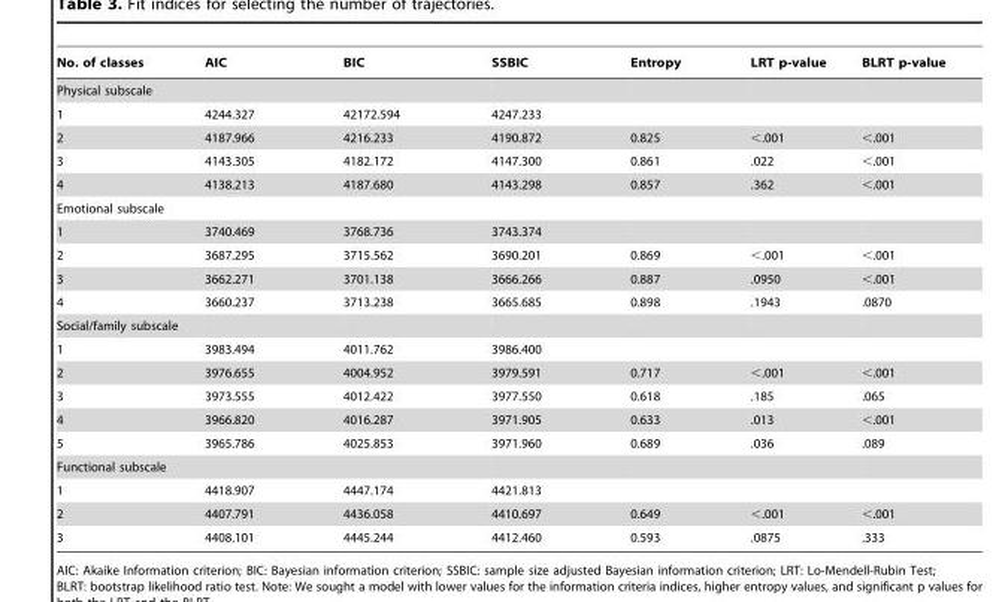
<table><thead><tr><td>No. of classes</td><td>AIC</td><td>BIC</td><td>SSBIC</td><td>Entropy</td><td>LRT p-value</td><td>BLRT p-value</td></tr></thead><tbody><tr><td colspan="7">Physical subscale</td></tr><tr><td>1</td><td>4244.327</td><td>42172.594</td><td>4247.233</td><td></td><td></td><td></td></tr><tr><td>2</td><td>4187.966</td><td>4216.233</td><td>4190.872</td><td>0.825</td><td>&lt;.001</td><td>&lt;.001</td></tr><tr><td>3</td><td>4143.305</td><td>4182.172</td><td>4147.300</td><td>0.861</td><td>.022</td><td>&lt;.001</td></tr><tr><td>4</td><td>4138.213</td><td>4187.680</td><td>4143.298</td><td>0.857</td><td>.362</td><td>&lt;.001</td></tr><tr><td colspan="7">Emotional subscale</td></tr><tr><td>1</td><td>3740.469</td><td>3768.736</td><td>3743.374</td><td></td><td></td><td></td></tr><tr><td>2</td><td>3687.295</td><td>3715.562</td><td>3690.201</td><td>0.869</td><td>&lt;.001</td><td>&lt;.001</td></tr><tr><td>3</td><td>3662.271</td><td>3701.138</td><td>3666.266</td><td>0.887</td><td>.0950</td><td>&lt;.001</td></tr><tr><td>4</td><td>3660.237</td><td>3713.238</td><td>3665.685</td><td>0.898</td><td>.1943</td><td>.0870</td></tr><tr><td colspan="7">Social/family subscale</td></tr><tr><td>1</td><td>3983.494</td><td>4011.762</td><td>3986.400</td><td></td><td></td><td></td></tr><tr><td>2</td><td>3976.655</td><td>4004.952</td><td>3979.591</td><td>0.717</td><td>&lt;.001</td><td>&lt;.001</td></tr><tr><td>3</td><td>3973.555</td><td>4012.422</td><td>3977.550</td><td>0.618</td><td>.185</td><td>.065</td></tr><tr><td>4</td><td>3966.820</td><td>4016.287</td><td>3971.905</td><td>0.633</td><td>.013</td><td>&lt;.001</td></tr><tr><td>5</td><td>3965.786</td><td>4025.853</td><td>3971.960</td><td>0.689</td><td>.036</td><td>.089</td></tr><tr><td colspan="7">Functional subscale</td></tr><tr><td>1</td><td>4418.907</td><td>4447.174</td><td>4421.813</td><td></td><td></td><td></td></tr><tr><td>2</td><td>4407.791</td><td>4436.058</td><td>4410.697</td><td>0.649</td><td>&lt;.001</td><td>&lt;.001</td></tr><tr><td>3</td><td>4408.101</td><td>4445.244</td><td>4412.460</td><td>0.593</td><td>.0875</td><td>.333</td></tr></tbody></table>